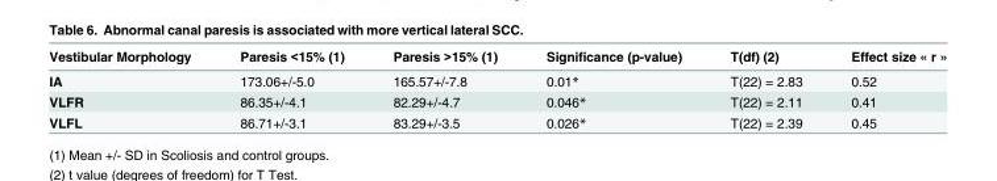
<table><thead><tr><td>Vestibular Morphology</td><td>Paresis &lt;15% (1)</td><td>Paresis &gt;15% (1)</td><td>Significance (p-value)</td><td>T(df) (2)</td><td>Effect size « r »</td></tr></thead><tbody><tr><td>IA</td><td>173.06+/-5.0</td><td>165.57+/-7.8</td><td>0.01*</td><td>T(22) = 2.83</td><td>0.52</td></tr><tr><td>VLFR</td><td>86.35+/-4.1</td><td>82.29+/-4.7</td><td>0.046*</td><td>T(22) = 2.11</td><td>0.41</td></tr><tr><td>VLFL</td><td>86.71+/-3.1</td><td>83.29+/-3.5</td><td>0.026*</td><td>T(22) = 2.39</td><td>0.45</td></tr></tbody></table>